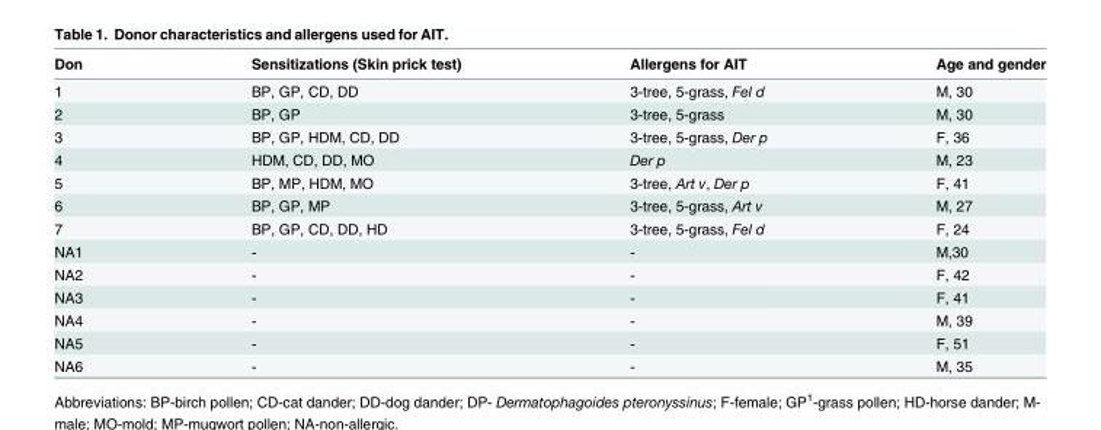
<table><thead><tr><td>Don</td><td>Sensitizations (Skin prick test)</td><td>Allergens for AIT</td><td>Age and gender</td></tr></thead><tbody><tr><td>1</td><td>BP, GP, CD, DD</td><td>3-tree, 5-grass, Fel d</td><td>M, 30</td></tr><tr><td>2</td><td>BP, GP</td><td>3-tree, 5-grass</td><td>M, 30</td></tr><tr><td>3</td><td>BP, GP, HDM, CD, DD</td><td>3-tree, 5-grass, Der p</td><td>F, 36</td></tr><tr><td>4</td><td>HDM, CD, DD, MO</td><td>Der p</td><td>M, 23</td></tr><tr><td>5</td><td>BP, MP, HDM, MO</td><td>3-tree, Art v, Der p</td><td>F, 41</td></tr><tr><td>6</td><td>BP, GP, MP</td><td>3-tree, 5-grass, Art v</td><td>M, 27</td></tr><tr><td>7</td><td>BP, GP, CD, DD, HD</td><td>3-tree, 5-grass, Fel d</td><td>F, 24</td></tr><tr><td>NA1</td><td>-</td><td>-</td><td>M,30</td></tr><tr><td>NA2</td><td>-</td><td>-</td><td>F, 42</td></tr><tr><td>NA3</td><td>-</td><td>-</td><td>F, 41</td></tr><tr><td>NA4</td><td>-</td><td>-</td><td>M, 39</td></tr><tr><td>NA5</td><td>-</td><td>-</td><td>F, 51</td></tr><tr><td>NA6</td><td>-</td><td>-</td><td>M, 35</td></tr></tbody></table>